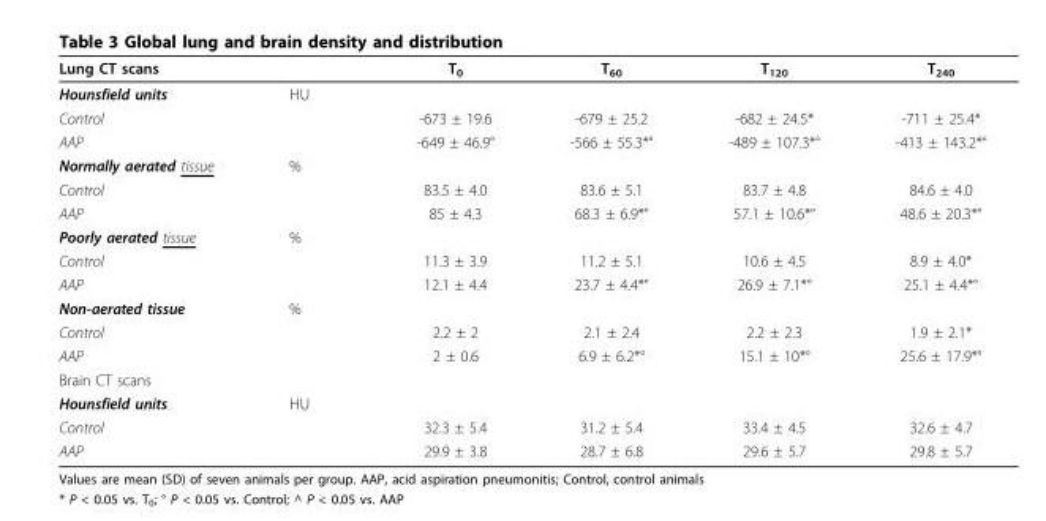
<table><thead><tr><td>Lung CT scans</td><td></td><td>T<sub>0</sub></td><td>T<sub>60</sub></td><td>T<sub>120</sub></td><td>T<sub>240</sub></td></tr></thead><tbody><tr><td>Hounsfield units</td><td>HU</td><td></td><td></td><td></td><td></td></tr><tr><td>Control</td><td></td><td>-673 ± 19.6</td><td>-679 ± 25.2</td><td>-682 ± 24.5*</td><td>-711 ± 25.4*</td></tr><tr><td>AAP</td><td></td><td>-649 ± 46.9°</td><td>-566 ± 55.3*°</td><td>-489 ± 107.3*°</td><td>-413 ± 143.2*°</td></tr><tr><td>Normally aerated tissue</td><td>%</td><td></td><td></td><td></td><td></td></tr><tr><td>Control</td><td></td><td>83.5 ± 4.0</td><td>83.6 ± 5.1</td><td>83.7 ± 4.8</td><td>84.6 ± 4.0</td></tr><tr><td>AAP</td><td></td><td>85 ± 4.3</td><td>68.3 ± 6.9*°</td><td>57.1 ± 10.6*°</td><td>48.6 ± 20.3*°</td></tr><tr><td>Poorly aerated tissue</td><td>%</td><td></td><td></td><td></td><td></td></tr><tr><td>Control</td><td></td><td>11.3 ± 3.9</td><td>11.2 ± 5.1</td><td>10.6 ± 4.5</td><td>8.9 ± 4.0*</td></tr><tr><td>AAP</td><td></td><td>12.1 ± 4.4</td><td>23.7 ± 4.4*°</td><td>26.9 ± 7.1*°</td><td>25.1 ± 4.4*°</td></tr><tr><td>Non-aerated tissue</td><td>%</td><td></td><td></td><td></td><td></td></tr><tr><td>Control</td><td></td><td>2.2 ± 2</td><td>2.1 ± 2.4</td><td>2.2 ± 2.3</td><td>1.9 ± 2.1*</td></tr><tr><td>AAP</td><td></td><td>2 ± 0.6</td><td>6.9 ± 6.2*°</td><td>15.1 ± 10*°</td><td>25.6 ± 17.9*°</td></tr><tr><td colspan="6">Brain CT scans</td></tr><tr><td>Hounsfield units</td><td>HU</td><td></td><td></td><td></td><td></td></tr><tr><td>Control</td><td></td><td>32.3 ± 5.4</td><td>31.2 ± 5.4</td><td>33.4 ± 4.5</td><td>32.6 ± 4.7</td></tr><tr><td>AAP</td><td></td><td>29.9 ± 3.8</td><td>28.7 ± 6.8</td><td>29.6 ± 5.7</td><td>29.8 ± 5.7</td></tr></tbody></table>